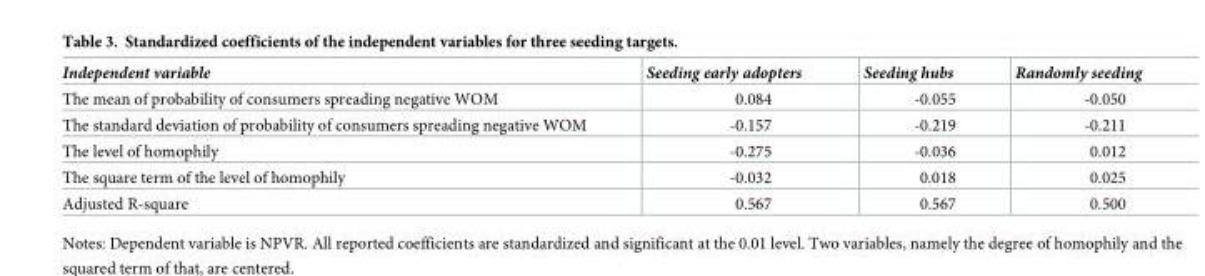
<table><thead><tr><td>Independent variable</td><td>Seeding early adopters</td><td>Seeding hubs</td><td>Randomly seeding</td></tr></thead><tbody><tr><td>The mean of probability of consumers spreading negative WOM</td><td>0.084</td><td>-0.055</td><td>-0.050</td></tr><tr><td>The standard deviation of probability of consumers spreading negative WOM</td><td>-0.157</td><td>-0.219</td><td>-0.211</td></tr><tr><td>The level of homophily</td><td>-0.275</td><td>-0.036</td><td>0.012</td></tr><tr><td>The square term of the level of homophily</td><td>-0.032</td><td>0.018</td><td>0.025</td></tr><tr><td>Adjusted R-square</td><td>0.567</td><td>0.567</td><td>0.500</td></tr></tbody></table>